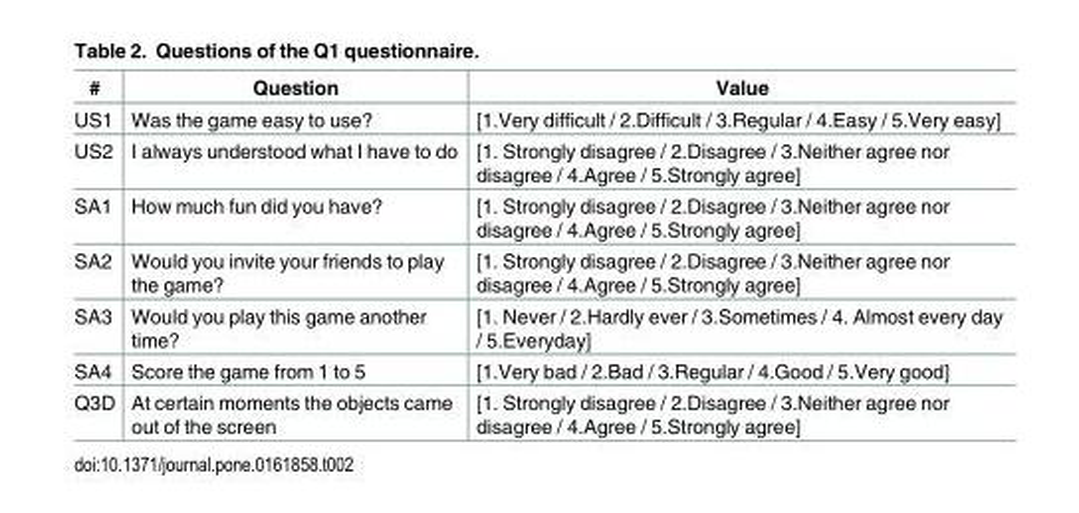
<table><thead><tr><td>#</td><td>Question</td><td>Value</td></tr></thead><tbody><tr><td>US1</td><td>Was the game easy to use?</td><td>[1.Very difficult / 2.Difficult / 3.Regular / 4.Easy / 5.Very easy]</td></tr><tr><td>US2</td><td>I always understood what I have to do</td><td>[1. Strongly disagree / 2.Disagree / 3.Neither agree nor disagree / 4.Agree / 5.Strongly agree]</td></tr><tr><td>SA1</td><td>How much fun did you have?</td><td>[1. Strongly disagree / 2.Disagree / 3.Neither agree nor disagree / 4.Agree / 5.Strongly agree]</td></tr><tr><td>SA2</td><td>Would you invite your friends to play the game?</td><td>[1. Strongly disagree / 2.Disagree / 3.Neither agree nor disagree / 4.Agree / 5.Strongly agree]</td></tr><tr><td>SA3</td><td>Would you play this game another time?</td><td>[1. Never / 2.Hardly ever / 3.Sometimes / 4. Almost every day / 5.Everyday]</td></tr><tr><td>SA4</td><td>Score the game from 1 to 5</td><td>[1.Very bad / 2.Bad / 3.Regular / 4.Good / 5.Very good]</td></tr><tr><td>Q3D</td><td>At certain moments the objects came out of the screen</td><td>[1. Strongly disagree / 2.Disagree / 3.Neither agree nor disagree / 4.Agree / 5.Strongly agree]</td></tr></tbody></table>